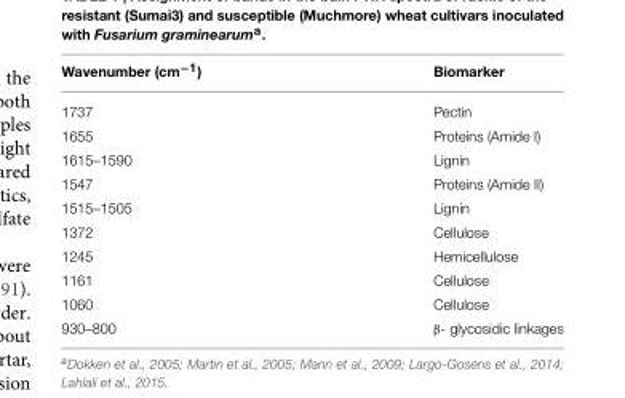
<table><thead><tr><td>Wavenumber (cm<sup>−1</sup>)</td><td>Biomarker</td></tr></thead><tbody><tr><td>1737</td><td>Pectin</td></tr><tr><td>1655</td><td>Proteins (Amide I)</td></tr><tr><td>1615–1590</td><td>Lignin</td></tr><tr><td>1547</td><td>Proteins (Amide II)</td></tr><tr><td>1515–1505</td><td>Lignin</td></tr><tr><td>1372</td><td>Cellulose</td></tr><tr><td>1245</td><td>Hemicellulose</td></tr><tr><td>1161</td><td>Cellulose</td></tr><tr><td>1060</td><td>Cellulose</td></tr><tr><td>930–800</td><td>β- glycosidic linkages</td></tr></tbody></table>